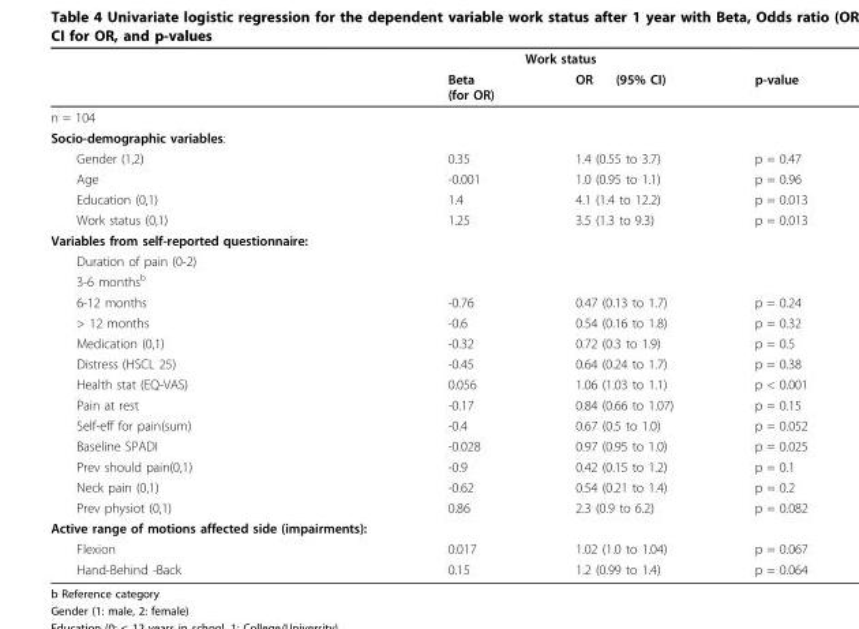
<table><thead><tr><td colspan="4">Work status</td></tr><tr><td></td><td>Beta (for OR)</td><td>OR (95% CI)</td><td>p-value</td></tr></thead><tbody><tr><td colspan="4">n = 104</td></tr><tr><td colspan="4">Socio-demographic variables:</td></tr><tr><td>Gender (1,2)</td><td>0.35</td><td>1.4 (0.55 to 3.7)</td><td>p = 0.47</td></tr><tr><td>Age</td><td>-0.001</td><td>1.0 (0.95 to 1.1)</td><td>p = 0.96</td></tr><tr><td>Education (0,1)</td><td>1.4</td><td>4.1 (1.4 to 12.2)</td><td>p = 0.013</td></tr><tr><td>Work status (0,1)</td><td>1.25</td><td>3.5 (1.3 to 9.3)</td><td>p = 0.013</td></tr><tr><td colspan="4">Variables from self-reported questionnaire:</td></tr><tr><td colspan="4">Duration of pain (0-2)</td></tr><tr><td colspan="4">3-6 months<sup>b</sup></td></tr><tr><td>6-12 months</td><td>-0.76</td><td>0.47 (0.13 to 1.7)</td><td>p = 0.24</td></tr><tr><td>&gt; 12 months</td><td>-0.6</td><td>0.54 (0.16 to 1.8)</td><td>p = 0.32</td></tr><tr><td>Medication (0,1)</td><td>-0.32</td><td>0.72 (0.3 to 1.9)</td><td>p = 0.5</td></tr><tr><td>Distress (HSCL 25)</td><td>-0.45</td><td>0.64 (0.24 to 1.7)</td><td>p = 0.38</td></tr><tr><td>Health stat (EQ-VAS)</td><td>0.056</td><td>1.06 (1.03 to 1.1)</td><td>p &lt; 0.001</td></tr><tr><td>Pain at rest</td><td>-0.17</td><td>0.84 (0.66 to 1.07)</td><td>p = 0.15</td></tr><tr><td>Self-eff for pain(sum)</td><td>-0.4</td><td>0.67 (0.5 to 1.0)</td><td>p = 0.052</td></tr><tr><td>Baseline SPADI</td><td>-0.028</td><td>0.97 (0.95 to 1.0)</td><td>p = 0.025</td></tr><tr><td>Prev should pain(0,1)</td><td>-0.9</td><td>0.42 (0.15 to 1.2)</td><td>p = 0.1</td></tr><tr><td>Neck pain (0,1)</td><td>-0.62</td><td>0.54 (0.21 to 1.4)</td><td>p = 0.2</td></tr><tr><td>Prev physiot (0,1)</td><td>0.86</td><td>2.3 (0.9 to 6.2)</td><td>p = 0.082</td></tr><tr><td colspan="4">Active range of motions affected side (impairments):</td></tr><tr><td>Flexion</td><td>0.017</td><td>1.02 (1.0 to 1.04)</td><td>p = 0.067</td></tr><tr><td>Hand-Behind -Back</td><td>0.15</td><td>1.2 (0.99 to 1.4)</td><td>p = 0.064</td></tr></tbody></table>